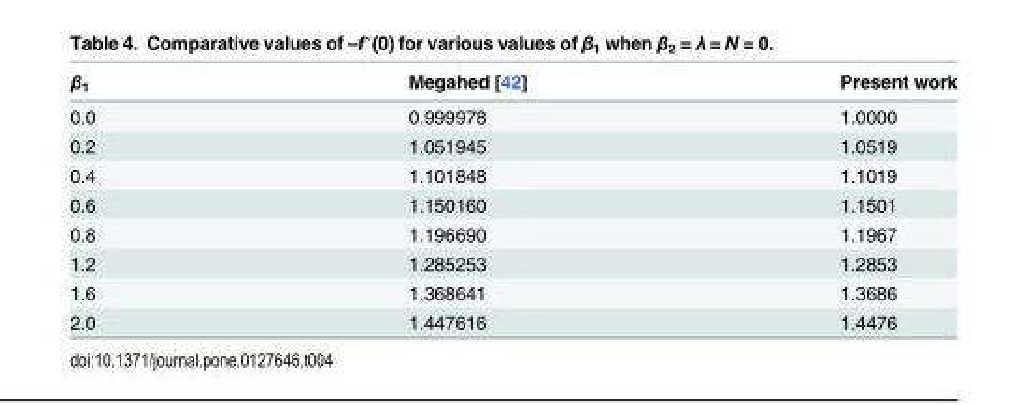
<table><thead><tr><td>β<sub>1</sub></td><td>Megahed [42]</td><td>Present work</td></tr></thead><tbody><tr><td>0.0</td><td>0.999978</td><td>1.0000</td></tr><tr><td>0.2</td><td>1.051945</td><td>1.0519</td></tr><tr><td>0.4</td><td>1.101848</td><td>1.1019</td></tr><tr><td>0.6</td><td>1.150160</td><td>1.1501</td></tr><tr><td>0.8</td><td>1.196690</td><td>1.1967</td></tr><tr><td>1.2</td><td>1.285253</td><td>1.2853</td></tr><tr><td>1.6</td><td>1.368641</td><td>1.3686</td></tr><tr><td>2.0</td><td>1.447616</td><td>1.4476</td></tr></tbody></table>